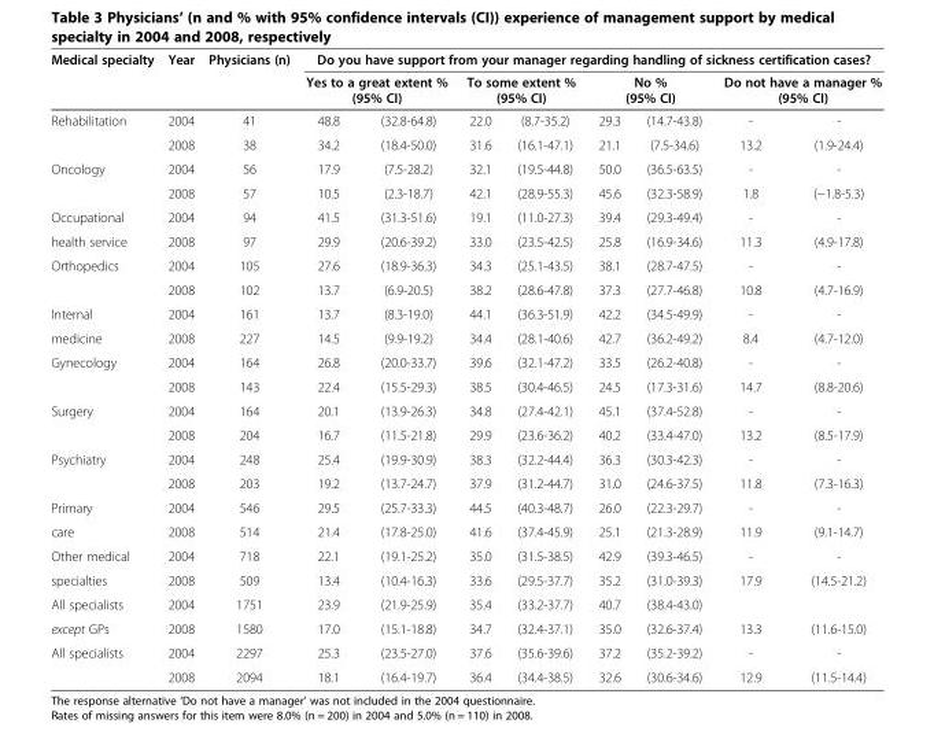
<table><thead><tr><td rowspan="3">Medical specialty Rehabilitation</td><td rowspan="3">Year 2004</td><td rowspan="3">Physicians (n) 41</td><td colspan="8">Do you have support from your manager regarding handling of sickness certification cases?</td></tr><tr><td colspan="2">Yes to a great extent % (95% CI)</td><td colspan="2">To some extent % (95% CI)</td><td colspan="2">No % (95% CI)</td><td colspan="2">Do not have a manager % (95% CI)</td></tr><tr><td>48.8</td><td>(32.8-64.8)</td><td>22.0</td><td>(8.7-35.2)</td><td>29.3</td><td>(14.7-43.8)</td><td>-</td><td>-</td></tr></thead><tbody><tr><td></td><td>2008</td><td>38</td><td>34.2</td><td>(18.4-50.0)</td><td>31.6</td><td>(16.1-47.1)</td><td>21.1</td><td>(7.5-34.6)</td><td>13.2</td><td>(1.9-24.4)</td></tr><tr><td rowspan="2">Oncology</td><td>2004</td><td>56</td><td>17.9</td><td>(7.5-28.2)</td><td>32.1</td><td>(19.5-44.8)</td><td>50.0</td><td>(36.5-63.5)</td><td>-</td><td>-</td></tr><tr><td>2008</td><td>57</td><td>10.5</td><td>(2.3-18.7)</td><td>42.1</td><td>(28.9-55.3)</td><td>45.6</td><td>(32.3-58.9)</td><td>1.8</td><td>(−1.8-5.3)</td></tr><tr><td>Occupational</td><td>2004</td><td>94</td><td>41.5</td><td>(31.3-51.6)</td><td>19.1</td><td>(11.0-27.3)</td><td>39.4</td><td>(29.3-49.4)</td><td>-</td><td>-</td></tr><tr><td>health service</td><td>2008</td><td>97</td><td>29.9</td><td>(20.6-39.2)</td><td>33.0</td><td>(23.5-42.5)</td><td>25.8</td><td>(16.9-34.6)</td><td>11.3</td><td>(4.9-17.8)</td></tr><tr><td rowspan="2">Orthopedics</td><td>2004</td><td>105</td><td>27.6</td><td>(18.9-36.3)</td><td>34.3</td><td>(25.1-43.5)</td><td>38.1</td><td>(28.7-47.5)</td><td>-</td><td>-</td></tr><tr><td>2008</td><td>102</td><td>13.7</td><td>(6.9-20.5)</td><td>38.2</td><td>(28.6-47.8)</td><td>37.3</td><td>(27.7-46.8)</td><td>10.8</td><td>(4.7-16.9)</td></tr><tr><td>Internal</td><td>2004</td><td>161</td><td>13.7</td><td>(8.3-19.0)</td><td>44.1</td><td>(36.3-51.9)</td><td>42.2</td><td>(34.5-49.9)</td><td>-</td><td>-</td></tr><tr><td>medicine</td><td>2008</td><td>227</td><td>14.5</td><td>(9.9-19.2)</td><td>34.4</td><td>(28.1-40.6)</td><td>42.7</td><td>(36.2-49.2)</td><td>8.4</td><td>(4.7-12.0)</td></tr><tr><td rowspan="2">Gynecology</td><td>2004</td><td>164</td><td>26.8</td><td>(20.0-33.7)</td><td>39.6</td><td>(32.1-47.2)</td><td>33.5</td><td>(26.2-40.8)</td><td>-</td><td>-</td></tr><tr><td>2008</td><td>143</td><td>22.4</td><td>(15.5-29.3)</td><td>38.5</td><td>(30.4-46.5)</td><td>24.5</td><td>(17.3-31.6)</td><td>14.7</td><td>(8.8-20.6)</td></tr><tr><td rowspan="2">Surgery</td><td>2004</td><td>164</td><td>20.1</td><td>(13.9-26.3)</td><td>34.8</td><td>(27.4-42.1)</td><td>45.1</td><td>(37.4-52.8)</td><td>-</td><td>-</td></tr><tr><td>2008</td><td>204</td><td>16.7</td><td>(11.5-21.8)</td><td>29.9</td><td>(23.6-36.2)</td><td>40.2</td><td>(33.4-47.0)</td><td>13.2</td><td>(8.5-17.9)</td></tr><tr><td rowspan="2">Psychiatry</td><td>2004</td><td>248</td><td>25.4</td><td>(19.9-30.9)</td><td>38.3</td><td>(32.2-44.4)</td><td>36.3</td><td>(30.3-42.3)</td><td>-</td><td>-</td></tr><tr><td>2008</td><td>203</td><td>19.2</td><td>(13.7-24.7)</td><td>37.9</td><td>(31.2-44.7)</td><td>31.0</td><td>(24.6-37.5)</td><td>11.8</td><td>(7.3-16.3)</td></tr><tr><td>Primary</td><td>2004</td><td>546</td><td>29.5</td><td>(25.7-33.3)</td><td>44.5</td><td>(40.3-48.7)</td><td>26.0</td><td>(22.3-29.7)</td><td>-</td><td>-</td></tr><tr><td>care</td><td>2008</td><td>514</td><td>21.4</td><td>(17.8-25.0)</td><td>41.6</td><td>(37.4-45.9)</td><td>25.1</td><td>(21.3-28.9)</td><td>11.9</td><td>(9.1-14.7)</td></tr><tr><td>Other medical</td><td>2004</td><td>718</td><td>22.1</td><td>(19.1-25.2)</td><td>35.0</td><td>(31.5-38.5)</td><td>42.9</td><td>(39.3-46.5)</td><td>-</td><td>-</td></tr><tr><td>specialties</td><td>2008</td><td>509</td><td>13.4</td><td>(10.4-16.3)</td><td>33.6</td><td>(29.5-37.7)</td><td>35.2</td><td>(31.0-39.3)</td><td>17.9</td><td>(14.5-21.2)</td></tr><tr><td>All specialists</td><td>2004</td><td>1751</td><td>23.9</td><td>(21.9-25.9)</td><td>35.4</td><td>(33.2-37.7)</td><td>40.7</td><td>(38.4-43.0)</td><td></td><td></td></tr><tr><td>except GPs</td><td>2008</td><td>1580</td><td>17.0</td><td>(15.1-18.8)</td><td>34.7</td><td>(32.4-37.1)</td><td>35.0</td><td>(32.6-37.4)</td><td>13.3</td><td>(11.6-15.0)</td></tr><tr><td rowspan="2">All specialists</td><td>2004</td><td>2297</td><td>25.3</td><td>(23.5-27.0)</td><td>37.6</td><td>(35.6-39.6)</td><td>37.2</td><td>(35.2-39.2)</td><td>-</td><td>-</td></tr><tr><td>2008</td><td>2094</td><td>18.1</td><td>(16.4-19.7)</td><td>36.4</td><td>(34.4-38.5)</td><td>32.6</td><td>(30.6-34.6)</td><td>12.9</td><td>(11.5-14.4)</td></tr></tbody></table>